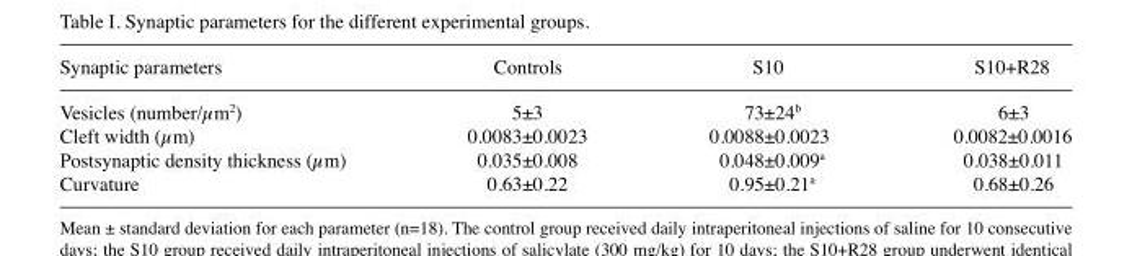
<table><thead><tr><td>Synaptic parameters</td><td>Controls</td><td>S10</td><td>S10+R28</td></tr></thead><tbody><tr><td>Vesicles (number/µm<sup>2</sup>)</td><td>5±3</td><td>73±24<sup>b</sup></td><td>6±3</td></tr><tr><td>Cleft width (µm)</td><td>0.0083±0.0023</td><td>0.0088±0.0023</td><td>0.0082±0.0016</td></tr><tr><td>Postsynaptic density thickness (µm)</td><td>0.035±0.008</td><td>0.048±0.009<sup>a</sup></td><td>0.038±0.011</td></tr><tr><td>Curvature</td><td>0.63±0.22</td><td>0.95±0.21<sup>a</sup></td><td>0.68±0.26</td></tr></tbody></table>